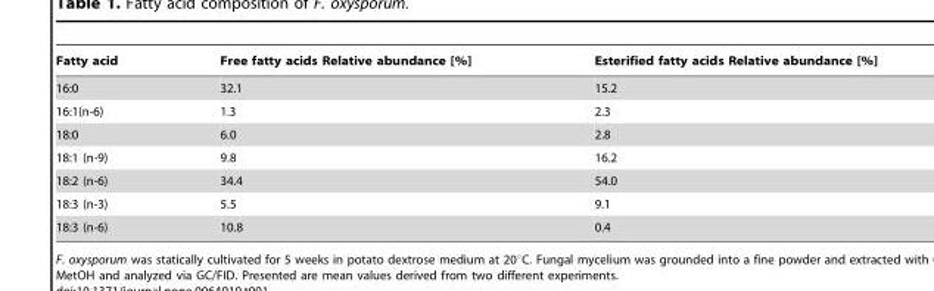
<table><thead><tr><td>Fatty acid</td><td>Free fatty acids Relative abundance [%]</td><td>Esterified fatty acids Relative abundance [%]</td></tr></thead><tbody><tr><td>16:0</td><td>32.1</td><td>15.2</td></tr><tr><td>16:1(n-6)</td><td>1.3</td><td>2.3</td></tr><tr><td>18:0</td><td>6.0</td><td>2.8</td></tr><tr><td>18:1 (n-9)</td><td>9.8</td><td>16.2</td></tr><tr><td>18:2 (n-6)</td><td>34.4</td><td>54.0</td></tr><tr><td>18:3 (n-3)</td><td>5.5</td><td>9.1</td></tr><tr><td>18:3 (n-6)</td><td>10.8</td><td>0.4</td></tr></tbody></table>